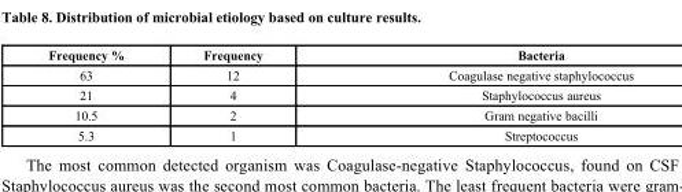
<table><thead><tr><td>Frequency %</td><td>Frequency</td><td>Bacteria</td></tr></thead><tbody><tr><td>63</td><td>12</td><td>Coagulase negative staphylococcus</td></tr><tr><td>21</td><td>4</td><td>Staphylococcus aureus</td></tr><tr><td>10.5</td><td>2</td><td>Gram negative bacilli</td></tr><tr><td>5.3</td><td>1</td><td>Streptococcus</td></tr></tbody></table>